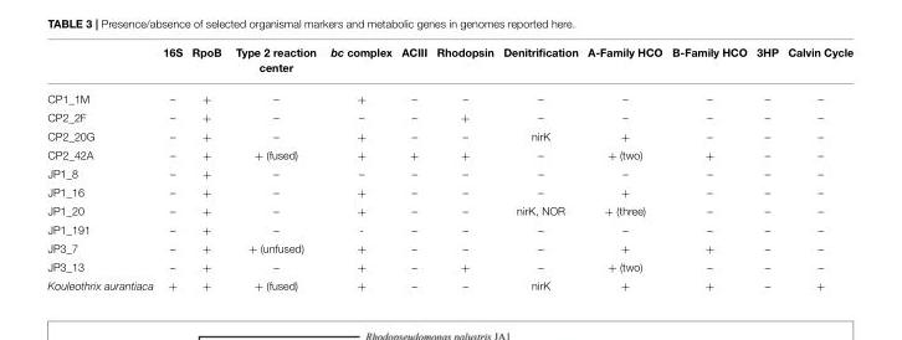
<table><thead><tr><td></td><td>16S</td><td>RpoB</td><td>Type 2 reaction center</td><td>bc complex</td><td>ACIII</td><td>Rhodopsin</td><td>Denitrification</td><td>A-Family HCO</td><td>B-Family HCO</td><td>3HP</td><td>Calvin Cycle</td></tr></thead><tbody><tr><td>CP1_1M</td><td>–</td><td>+</td><td>–</td><td>+</td><td>–</td><td>–</td><td>–</td><td>–</td><td>–</td><td>–</td><td>–</td></tr><tr><td>CP2_2F</td><td>–</td><td>+</td><td>–</td><td>–</td><td>–</td><td>+</td><td>–</td><td>–</td><td>–</td><td>–</td><td>–</td></tr><tr><td>CP2_20G</td><td>–</td><td>+</td><td>–</td><td>+</td><td>–</td><td>–</td><td>nirK</td><td>+</td><td>–</td><td>–</td><td>–</td></tr><tr><td>CP2_42A</td><td>–</td><td>+</td><td>+ (fused)</td><td>+</td><td>+</td><td>+</td><td>–</td><td>+ (two)</td><td>+</td><td>–</td><td>–</td></tr><tr><td>JP1_8</td><td>–</td><td>+</td><td>–</td><td>–</td><td>–</td><td>–</td><td>–</td><td>–</td><td>–</td><td>–</td><td>–</td></tr><tr><td>JP1_16</td><td>–</td><td>+</td><td>–</td><td>+</td><td>–</td><td>–</td><td>–</td><td>+</td><td>–</td><td>–</td><td>–</td></tr><tr><td>JP1_20</td><td>–</td><td>+</td><td>–</td><td>+</td><td>–</td><td>–</td><td>nirK, NOR</td><td>+ (three)</td><td>–</td><td>–</td><td>–</td></tr><tr><td>JP1_191</td><td>–</td><td>+</td><td>–</td><td>-</td><td>–</td><td>–</td><td>–</td><td>–</td><td>–</td><td>–</td><td>–</td></tr><tr><td>JP3_7</td><td>–</td><td>+</td><td>+ (unfused)</td><td>+</td><td>–</td><td>–</td><td>–</td><td>+</td><td>+</td><td>–</td><td>–</td></tr><tr><td>JP3_13</td><td>–</td><td>+</td><td>–</td><td>+</td><td>–</td><td>+</td><td>–</td><td>+ (two)</td><td>–</td><td>–</td><td>–</td></tr><tr><td>Kouleothrix aurantiaca</td><td>+</td><td>+</td><td>+ (fused)</td><td>+</td><td>–</td><td>–</td><td>nirK</td><td>+</td><td>+</td><td>–</td><td>+</td></tr></tbody></table>